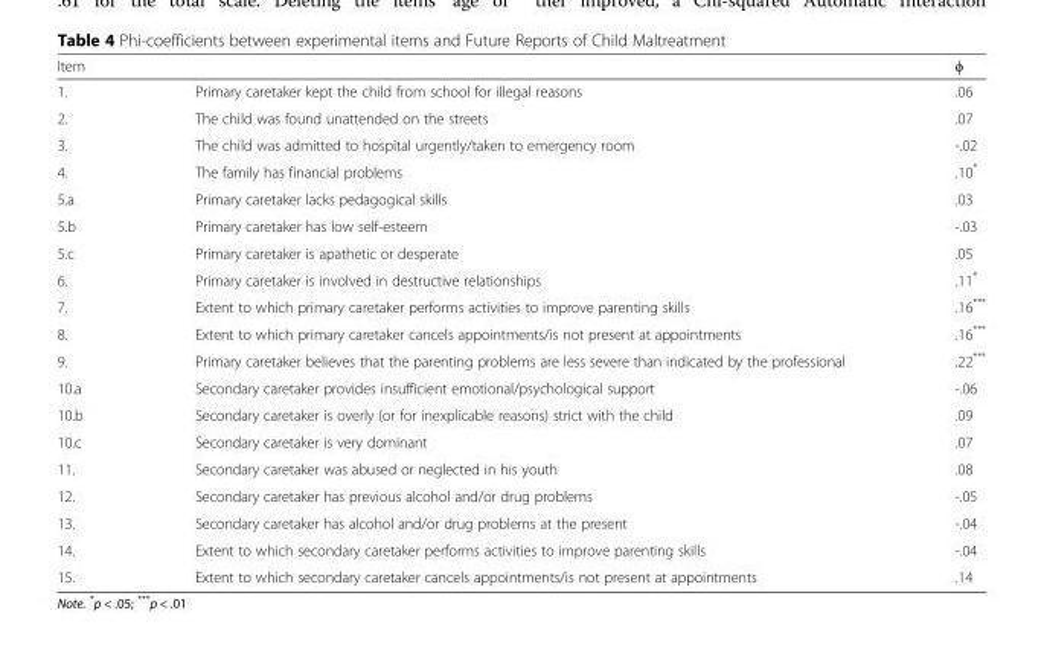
<table><thead><tr><td>Item</td><td></td><td>ϕ</td></tr></thead><tbody><tr><td>1.</td><td>Primary caretaker kept the child from school for illegal reasons</td><td>.06</td></tr><tr><td>2.</td><td>The child was found unattended on the streets</td><td>.07</td></tr><tr><td>3.</td><td>The child was admitted to hospital urgently/taken to emergency room</td><td>-.02</td></tr><tr><td>4.</td><td>The family has financial problems</td><td>.10*</td></tr><tr><td>5.a</td><td>Primary caretaker lacks pedagogical skills</td><td>.03</td></tr><tr><td>5.b</td><td>Primary caretaker has low self-esteem</td><td>-.03</td></tr><tr><td>5.c</td><td>Primary caretaker is apathetic or desperate</td><td>.05</td></tr><tr><td>6.</td><td>Primary caretaker is involved in destructive relationships</td><td>.11*</td></tr><tr><td>7.</td><td>Extent to which primary caretaker performs activities to improve parenting skills</td><td>.16***</td></tr><tr><td>8.</td><td>Extent to which primary caretaker cancels appointments/is not present at appointments</td><td>.16***</td></tr><tr><td>9.</td><td>Primary caretaker believes that the parenting problems are less severe than indicated by the professional</td><td>.22***</td></tr><tr><td>10.a</td><td>Secondary caretaker provides insufficient emotional/psychological support</td><td>-.06</td></tr><tr><td>10.b</td><td>Secondary caretaker is overly (or for inexplicable reasons) strict with the child</td><td>.09</td></tr><tr><td>10.c</td><td>Secondary caretaker is very dominant</td><td>.07</td></tr><tr><td>11.</td><td>Secondary caretaker was abused or neglected in his youth</td><td>.08</td></tr><tr><td>12.</td><td>Secondary caretaker has previous alcohol and/or drug problems</td><td>-.05</td></tr><tr><td>13.</td><td>Secondary caretaker has alcohol and/or drug problems at the present</td><td>-.04</td></tr><tr><td>14.</td><td>Extent to which secondary caretaker performs activities to improve parenting skills</td><td>-.04</td></tr><tr><td>15.</td><td>Extent to which secondary caretaker cancels appointments/is not present at appointments</td><td>.14</td></tr></tbody></table>